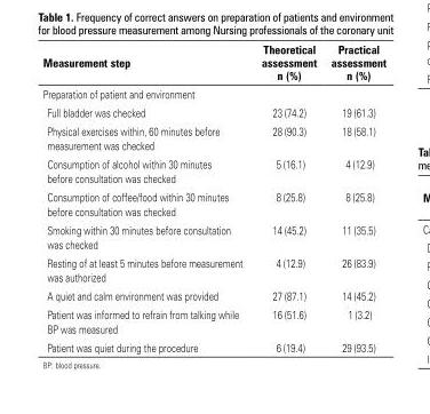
<table><thead><tr><td>Measurement step</td><td>Theoretical assessment n (%)</td><td>Practical assessment n (%)</td></tr></thead><tbody><tr><td colspan="3">Preparation of patient and environment</td></tr><tr><td>Full bladder was checked</td><td>23 (74.2)</td><td>19 (61.3)</td></tr><tr><td>Physical exercises within, 60 minutes before measurement was checked</td><td>28 (90.3)</td><td>18 (58.1)</td></tr><tr><td>Consumption of alcohol within 30 minutes before consultation was checked</td><td>5 (16.1)</td><td>4 (12.9)</td></tr><tr><td>Consumption of coffee/food within 30 minutes before consultation was checked</td><td>8 (25.8)</td><td>8 (25.8)</td></tr><tr><td>Smoking within 30 minutes before consultation was checked</td><td>14 (45.2)</td><td>11 (35.5)</td></tr><tr><td>Resting of at least 5 minutes before measurement was authorized</td><td>4 (12.9)</td><td>26 (83.9)</td></tr><tr><td>A quiet and calm environment was provided</td><td>27 (87.1)</td><td>14 (45.2)</td></tr><tr><td>Patient was informed to refrain from talking while BP was measured</td><td>16 (51.6)</td><td>1 (3.2)</td></tr><tr><td>Patient was quiet during the procedure</td><td>6 (19.4)</td><td>29 (93.5)</td></tr><tr><td colspan="3">BP: blood pressure.</td></tr></tbody></table>